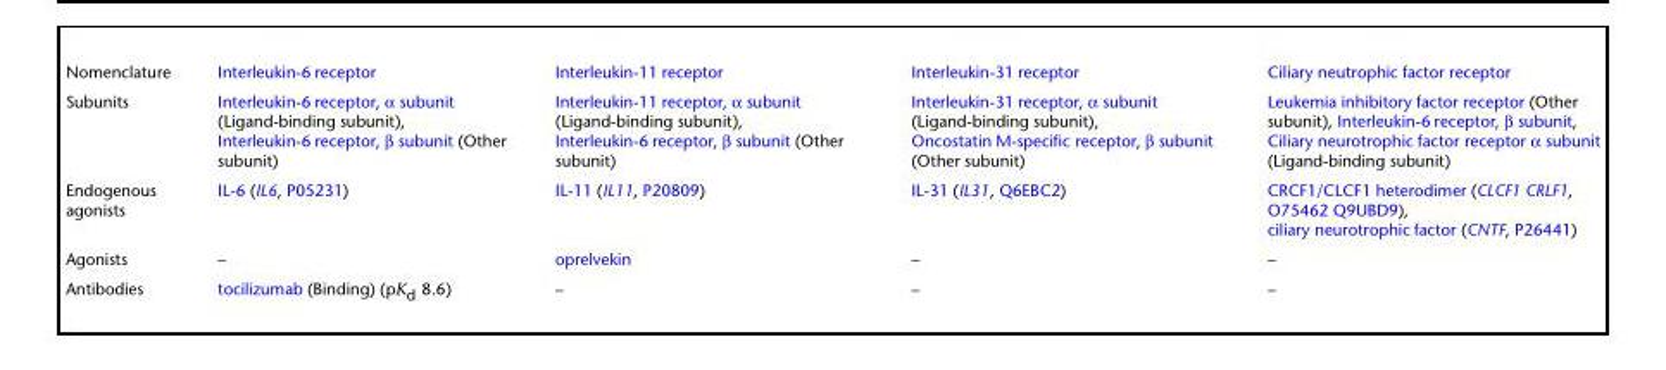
<table><tbody><tr><td>Nomenclature</td><td>Interleukin-6 receptor</td><td>Interleukin-11 receptor</td><td>Interleukin-31 receptor</td><td>Ciliary neutrophic factor receptor</td></tr><tr><td>Subunits</td><td>Interleukin-6 receptor, α subunit (Ligand-binding subunit), Interleukin-6 receptor, β subunit (Other subunit)</td><td>Interleukin-11 receptor, α subunit (Ligand-binding subunit), Interleukin-6 receptor, β subunit (Other subunit)</td><td>Interleukin-31 receptor, α subunit (Ligand-binding subunit), Oncostatin M-specific receptor, β subunit (Other subunit)</td><td>Leukemia inhibitory factor receptor (Other subunit), Interleukin-6 receptor, β subunit, Ciliary neurotrophic factor receptor α subunit (Ligand-binding subunit)</td></tr><tr><td>Endogenous agonists</td><td>IL-6 (IL6, P05231)</td><td>IL-11 (IL11, P20809)</td><td>IL-31 (IL31, Q6EBC2)</td><td>CRCF1/CLCF1 heterodimer (CLCF1 CRLF1, O75462 Q9UBD9), ciliary neurotrophic factor (CNTF, P26441)</td></tr><tr><td>Agonists</td><td>–</td><td>oprelvekin</td><td>–</td><td>–</td></tr><tr><td>Antibodies</td><td>tocilizumab (Binding) (pK<sub>d</sub> 8.6)</td><td>–</td><td>–</td><td>–</td></tr></tbody></table>